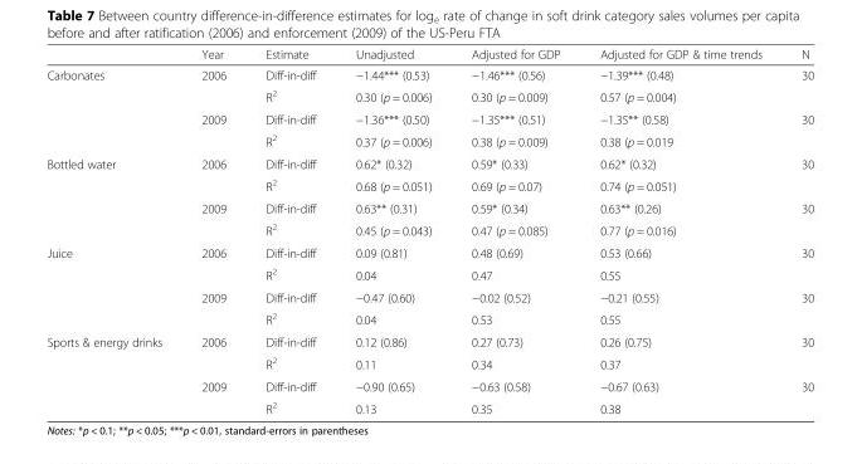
<table><thead><tr><td></td><td>Year</td><td>Estimate</td><td>Unadjusted</td><td>Adjusted for GDP</td><td>Adjusted for GDP &amp; time trends</td><td>N</td></tr></thead><tbody><tr><td rowspan="4">Carbonates</td><td rowspan="2">2006</td><td>Diff-in-diff</td><td>−1.44*** (0.53)</td><td>−1.46*** (0.56)</td><td>−1.39*** (0.48)</td><td rowspan="2">30</td></tr><tr><td>R<sup>2</sup></td><td>0.30 (p = 0.006)</td><td>0.30 (p = 0.009)</td><td>0.57 (p = 0.004)</td></tr><tr><td rowspan="2">2009</td><td>Diff-in-diff</td><td>−1.36*** (0.50)</td><td>−1.35*** (0.51)</td><td>−1.35** (0.58)</td><td rowspan="2">30</td></tr><tr><td>R<sup>2</sup></td><td>0.37 (p = 0.006)</td><td>0.38 (p = 0.009)</td><td>0.38 (p = 0.019</td></tr><tr><td rowspan="4">Bottled water</td><td rowspan="2">2006</td><td>Diff-in-diff</td><td>0.62* (0.32)</td><td>0.59* (0.33)</td><td>0.62* (0.32)</td><td rowspan="2">30</td></tr><tr><td>R<sup>2</sup></td><td>0.68 (p = 0.051)</td><td>0.69 (p = 0.07)</td><td>0.74 (p = 0.051)</td></tr><tr><td rowspan="2">2009</td><td>Diff-in-diff</td><td>0.63** (0.31)</td><td>0.59* (0.34)</td><td>0.63** (0.26)</td><td rowspan="2">30</td></tr><tr><td>R<sup>2</sup></td><td>0.45 (p = 0.043)</td><td>0.47 (p = 0.085)</td><td>0.77 (p = 0.016)</td></tr><tr><td rowspan="4">Juice</td><td rowspan="2">2006</td><td>Diff-in-diff</td><td>0.09 (0.81)</td><td>0.48 (0.69)</td><td>0.53 (0.66)</td><td rowspan="2">30</td></tr><tr><td>R<sup>2</sup></td><td>0.04</td><td>0.47</td><td>0.55</td></tr><tr><td rowspan="2">2009</td><td>Diff-in-diff</td><td>−0.47 (0.60)</td><td>−0.02 (0.52)</td><td>−0.21 (0.55)</td><td rowspan="2">30</td></tr><tr><td>R<sup>2</sup></td><td>0.04</td><td>0.53</td><td>0.55</td></tr><tr><td rowspan="4">Sports &amp; energy drinks</td><td rowspan="2">2006</td><td>Diff-in-diff</td><td>0.12 (0.86)</td><td>0.27 (0.73)</td><td>0.26 (0.75)</td><td rowspan="2">30</td></tr><tr><td>R<sup>2</sup></td><td>0.11</td><td>0.34</td><td>0.37</td></tr><tr><td rowspan="2">2009</td><td>Diff-in-diff</td><td>−0.90 (0.65)</td><td>−0.63 (0.58)</td><td>−0.67 (0.63)</td><td rowspan="2">30</td></tr><tr><td>R<sup>2</sup></td><td>0.13</td><td>0.35</td><td>0.38</td></tr></tbody></table>